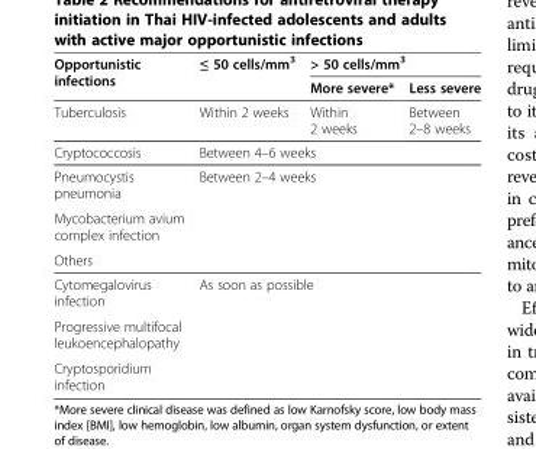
<table><thead><tr><td rowspan="2">Opportunistic infections</td><td rowspan="2">≤ 50 cells/mm<sup>3</sup></td><td colspan="2">&gt; 50 cells/mm<sup>3</sup></td></tr><tr><td>More severe*</td><td>Less severe</td></tr></thead><tbody><tr><td>Tuberculosis</td><td>Within 2 weeks</td><td>Within 2 weeks</td><td>Between 2–8 weeks</td></tr><tr><td>Cryptococcosis</td><td colspan="3">Between 4–6 weeks</td></tr><tr><td>Pneumocystis pneumonia</td><td rowspan="3" colspan="3">Between 2–4 weeks</td></tr><tr><td>Mycobacterium avium complex infection</td></tr><tr><td>Others</td></tr><tr><td>Cytomegalovirus infection</td><td rowspan="3" colspan="3">As soon as possible</td></tr><tr><td>Progressive multifocal leukoencephalopathy</td></tr><tr><td>Cryptosporidium infection</td></tr></tbody></table>